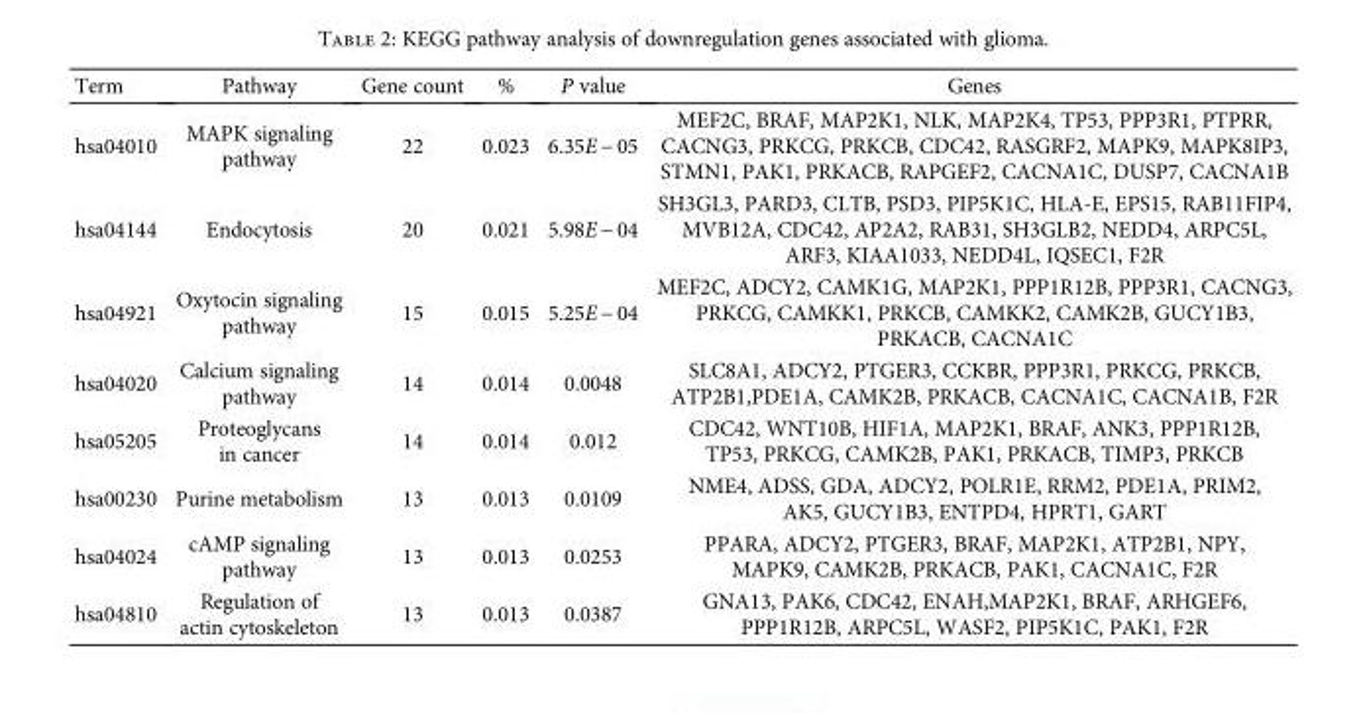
<table><thead><tr><td>Term</td><td>Pathway</td><td>Gene count</td><td>%</td><td>P value</td><td>Genes</td></tr></thead><tbody><tr><td>hsa04010</td><td>MAPK signaling pathway</td><td>22</td><td>0.023</td><td>6.35E − 05</td><td>MEF2C, BRAF, MAP2K1, NLK, MAP2K4, TP53, PPP3R1, PTPRR, CACNG3, PRKCG, PRKCB, CDC42, RASGRF2, MAPK9, MAPK8IP3, STMN1, PAK1, PRKACB, RAPGEF2, CACNA1C, DUSP7, CACNA1B</td></tr><tr><td>hsa04144</td><td>Endocytosis</td><td>20</td><td>0.021</td><td>5.98E − 04</td><td>SH3GL3, PARD3, CLTB, PSD3, PIP5K1C, HLA-E, EPS15, RAB11FIP4, MVB12A, CDC42, AP2A2, RAB31, SH3GLB2, NEDD4, ARPC5L, ARF3, KIAA1033, NEDD4L, IQSEC1, F2R</td></tr><tr><td>hsa04921</td><td>Oxytocin signaling pathway</td><td>15</td><td>0.015</td><td>5.25E − 04</td><td>MEF2C, ADCY2, CAMK1G, MAP2K1, PPP1R12B, PPP3R1, CACNG3, PRKCG, CAMKK1, PRKCB, CAMKK2, CAMK2B, GUCY1B3, PRKACB, CACNA1C</td></tr><tr><td>hsa04020</td><td>Calcium signaling pathway</td><td>14</td><td>0.014</td><td>0.0048</td><td>SLC8A1, ADCY2, PTGER3, CCKBR, PPP3R1, PRKCG, PRKCB, ATP2B1,PDE1A, CAMK2B, PRKACB, CACNA1C, CACNA1B, F2R</td></tr><tr><td>hsa05205</td><td>Proteoglycans in cancer</td><td>14</td><td>0.014</td><td>0.012</td><td>CDC42, WNT10B, HIF1A, MAP2K1, BRAF, ANK3, PPP1R12B, TP53, PRKCG, CAMK2B, PAK1, PRKACB, TIMP3, PRKCB</td></tr><tr><td>hsa00230</td><td>Purine metabolism</td><td>13</td><td>0.013</td><td>0.0109</td><td>NME4, ADSS, GDA, ADCY2, POLR1E, RRM2, PDE1A, PRIM2, AK5, GUCY1B3, ENTPD4, HPRT1, GART</td></tr><tr><td>hsa04024</td><td>cAMP signaling pathway</td><td>13</td><td>0.013</td><td>0.0253</td><td>PPARA, ADCY2, PTGER3, BRAF, MAP2K1, ATP2B1, NPY, MAPK9, CAMK2B, PRKACB, PAK1, CACNA1C, F2R</td></tr><tr><td>hsa04810</td><td>Regulation of actin cytoskeleton</td><td>13</td><td>0.013</td><td>0.0387</td><td>GNA13, PAK6, CDC42, ENAH,MAP2K1, BRAF, ARHGEF6, PPP1R12B, ARPC5L, WASF2, PIP5K1C, PAK1, F2R</td></tr></tbody></table>